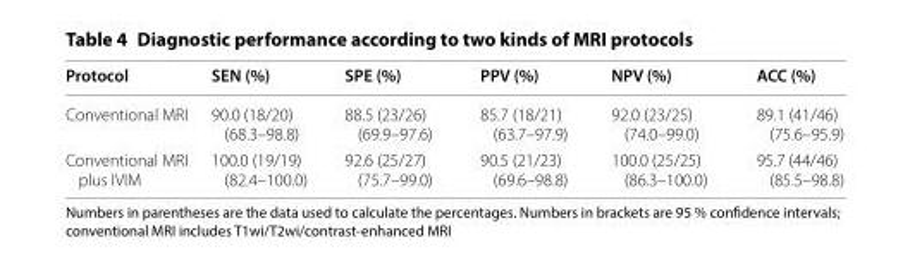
<table><thead><tr><td>Protocol</td><td>SEN (%)</td><td>SPE (%)</td><td>PPV (%)</td><td>NPV (%)</td><td>ACC (%)</td></tr></thead><tbody><tr><td>Conventional MRI</td><td>90.0 (18/20) (68.3–98.8)</td><td>88.5 (23/26) (69.9–97.6)</td><td>85.7 (18/21) (63.7–97.9)</td><td>92.0 (23/25) (74.0–99.0)</td><td>89.1 (41/46) (75.6–95.9)</td></tr><tr><td>Conventional MRI plus IVIM</td><td>100.0 (19/19) (82.4–100.0)</td><td>92.6 (25/27) (75.7–99.0)</td><td>90.5 (21/23) (69.6–98.8)</td><td>100.0 (25/25) (86.3–100.0)</td><td>95.7 (44/46) (85.5–98.8)</td></tr></tbody></table>